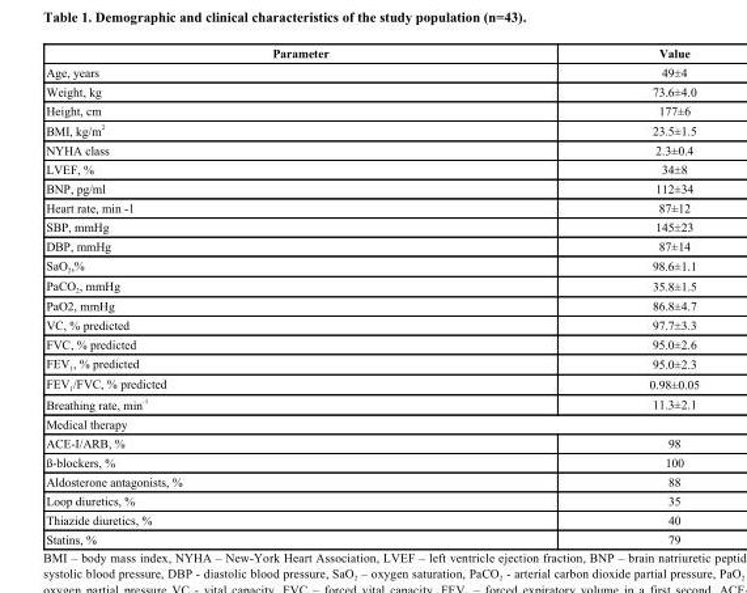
<table><thead><tr><td>Parameter</td><td>Value</td></tr></thead><tbody><tr><td>Age, years</td><td>49±4</td></tr><tr><td>Weight, kg</td><td>73.6±4.0</td></tr><tr><td>Height, cm</td><td>177±6</td></tr><tr><td>BMI, kg/m <sup>2</sup></td><td>23.5±1.5</td></tr><tr><td>NYHA class</td><td>2.3±0.4</td></tr><tr><td>LVEF, %</td><td>34±8</td></tr><tr><td>BNP, pg/ml</td><td>112±34</td></tr><tr><td>Heart rate, min -1</td><td>87±12</td></tr><tr><td>SBP, mmHg</td><td>145±23</td></tr><tr><td>DBP, mmHg</td><td>87±14</td></tr><tr><td>SaO<sub>2</sub>,%</td><td>98.6±1.1</td></tr><tr><td>PaCO<sub>2</sub>, mmHg</td><td>35.8±1.5</td></tr><tr><td>PaO2, mmHg</td><td>86.8±4.7</td></tr><tr><td>VC, % predicted</td><td>97.7±3.3</td></tr><tr><td>FVC, % predicted</td><td>95.0±2.6</td></tr><tr><td>FEV<sub>1</sub>, % predicted</td><td>95.0±2.3</td></tr><tr><td>FEV<sub>1</sub>/FVC, % predicted</td><td>0.98±0.05</td></tr><tr><td>Breathing rate, min <sup>-1</sup></td><td>11.3±2.1</td></tr><tr><td colspan="2">Medical therapy</td></tr><tr><td>ACE-I/ARB, %</td><td>98</td></tr><tr><td>ß-blockers, %</td><td>100</td></tr><tr><td>Aldosterone antagonists, %</td><td>88</td></tr><tr><td>Loop diuretics, %</td><td>35</td></tr><tr><td>Thiazide diuretics, %</td><td>40</td></tr><tr><td>Statins, %</td><td>79</td></tr></tbody></table>